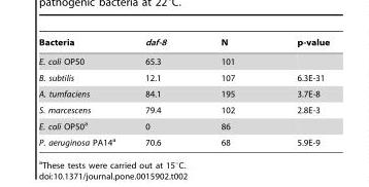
<table><thead><tr><td>Bacteria</td><td>daf-8</td><td>N</td><td>p-value</td></tr></thead><tbody><tr><td>E. coli OP50</td><td>65.3</td><td>101</td><td></td></tr><tr><td>B. subtilis</td><td>12.1</td><td>107</td><td>6.3E-31</td></tr><tr><td>A. tumfaciens</td><td>84.1</td><td>195</td><td>3.7E-8</td></tr><tr><td>S. marcescens</td><td>79.4</td><td>102</td><td>2.8E-3</td></tr><tr><td>E. coli OP50<sup>a</sup></td><td>0</td><td>86</td><td></td></tr><tr><td>P. aeruginosa PA14<sup>a</sup></td><td>70.6</td><td>68</td><td>5.9E-9</td></tr></tbody></table>